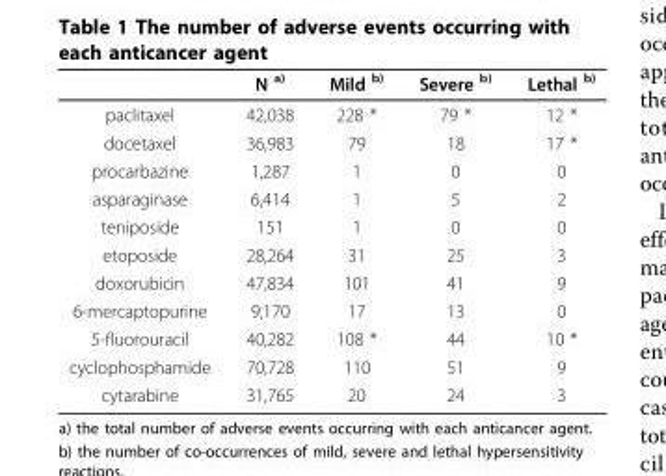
<table><thead><tr><td></td><td>N <sup>a)</sup></td><td>Mild <sup>b)</sup></td><td>Severe <sup>b)</sup></td><td>Lethal <sup>b)</sup></td></tr></thead><tbody><tr><td>paclitaxel</td><td>42,038</td><td>228 *</td><td>79 *</td><td>12 *</td></tr><tr><td>docetaxel</td><td>36,983</td><td>79</td><td>18</td><td>17 *</td></tr><tr><td>procarbazine</td><td>1,287</td><td>1</td><td>0</td><td>0</td></tr><tr><td>asparaginase</td><td>6,414</td><td>1</td><td>5</td><td>2</td></tr><tr><td>teniposide</td><td>151</td><td>1</td><td>0</td><td>0</td></tr><tr><td>etoposide</td><td>28,264</td><td>31</td><td>25</td><td>3</td></tr><tr><td>doxorubicin</td><td>47,834</td><td>101</td><td>41</td><td>9</td></tr><tr><td>6-mercaptopurine</td><td>9,170</td><td>17</td><td>13</td><td>0</td></tr><tr><td>5-fluorouracil</td><td>40,282</td><td>108 *</td><td>44</td><td>10 *</td></tr><tr><td>cyclophosphamide</td><td>70,728</td><td>110</td><td>51</td><td>9</td></tr><tr><td>cytarabine</td><td>31,765</td><td>20</td><td>24</td><td>3</td></tr></tbody></table>